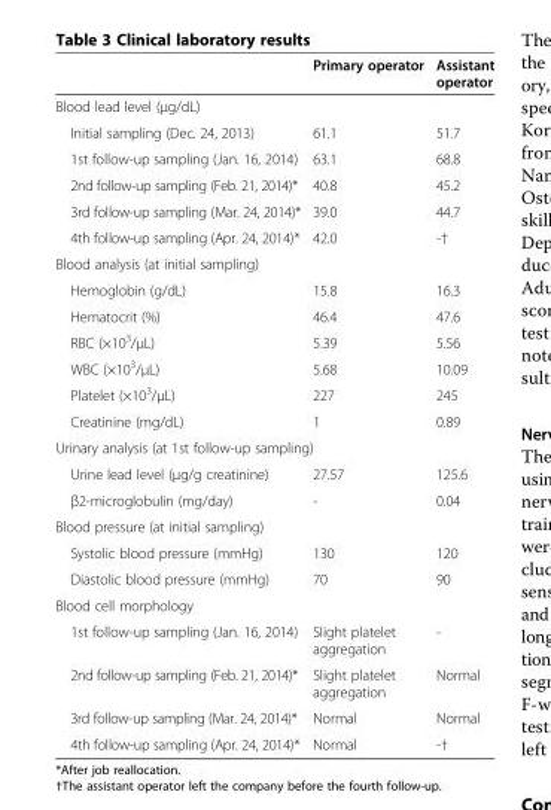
<table><thead><tr><td></td><td>Primary operator</td><td>Assistant operator</td></tr></thead><tbody><tr><td colspan="3">Blood lead level (μg/dL)</td></tr><tr><td>Initial sampling (Dec. 24, 2013)</td><td>61.1</td><td>51.7</td></tr><tr><td>1st follow-up sampling (Jan. 16, 2014)</td><td>63.1</td><td>68.8</td></tr><tr><td>2nd follow-up sampling (Feb. 21, 2014)*</td><td>40.8</td><td>45.2</td></tr><tr><td>3rd follow-up sampling (Mar. 24, 2014)*</td><td>39.0</td><td>44.7</td></tr><tr><td>4th follow-up sampling (Apr. 24, 2014)*</td><td>42.0</td><td>-†</td></tr><tr><td colspan="3">Blood analysis (at initial sampling)</td></tr><tr><td>Hemoglobin (g/dL)</td><td>15.8</td><td>16.3</td></tr><tr><td>Hematocrit (%)</td><td>46.4</td><td>47.6</td></tr><tr><td>RBC (×10<sup>3</sup>/μL)</td><td>5.39</td><td>5.56</td></tr><tr><td>WBC (×10<sup>3</sup>/μL)</td><td>5.68</td><td>10.09</td></tr><tr><td>Platelet (×10<sup>3</sup>/μL)</td><td>227</td><td>245</td></tr><tr><td>Creatinine (mg/dL)</td><td>1</td><td>0.89</td></tr><tr><td colspan="3">Urinary analysis (at 1st follow-up sampling)</td></tr><tr><td>Urine lead level (μg/g creatinine)</td><td>27.57</td><td>125.6</td></tr><tr><td>β2-microglobulin (mg/day)</td><td>-</td><td>0.04</td></tr><tr><td colspan="3">Blood pressure (at initial sampling)</td></tr><tr><td>Systolic blood pressure (mmHg)</td><td>130</td><td>120</td></tr><tr><td>Diastolic blood pressure (mmHg)</td><td>70</td><td>90</td></tr><tr><td colspan="3">Blood cell morphology</td></tr><tr><td>1st follow-up sampling (Jan. 16, 2014)</td><td>Slight platelet aggregation</td><td>-</td></tr><tr><td>2nd follow-up sampling (Feb. 21, 2014)*</td><td>Slight platelet aggregation</td><td>Normal</td></tr><tr><td>3rd follow-up sampling (Mar. 24, 2014)*</td><td>Normal</td><td>Normal</td></tr><tr><td>4th follow-up sampling (Apr. 24, 2014)*</td><td>Normal</td><td>-†</td></tr></tbody></table>